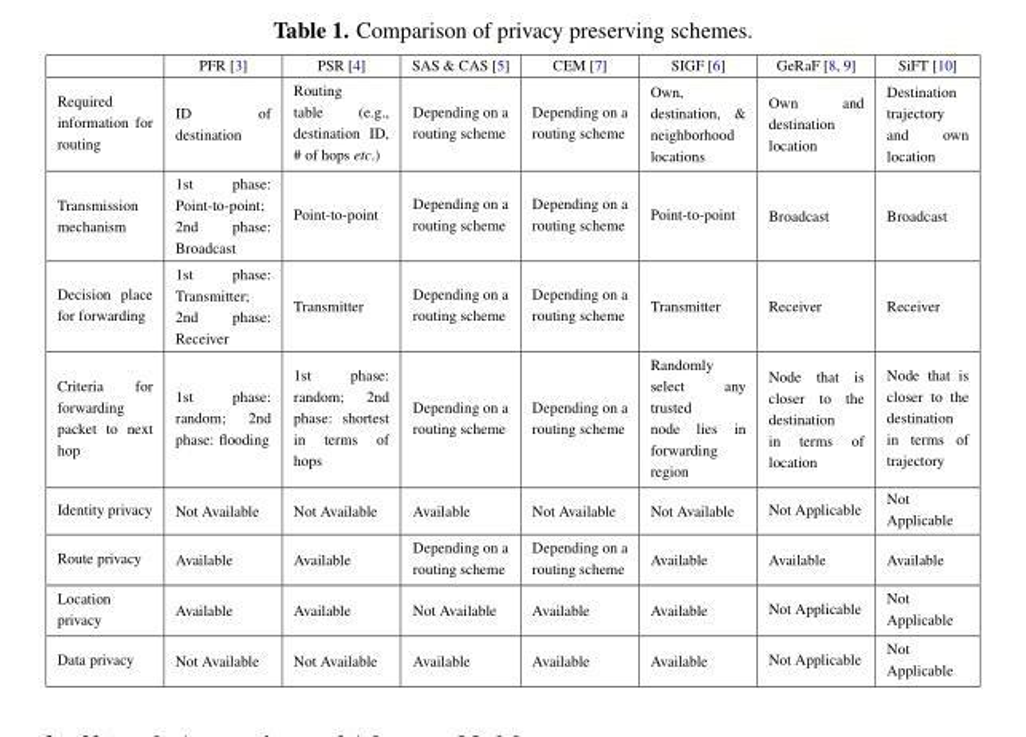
<table><thead><tr><td></td><td>PFR [3]</td><td>PSR [4]</td><td>SAS &amp; CAS [5]</td><td>CEM [7]</td><td>SIGF [6]</td><td>GeRaF [8, 9]</td><td>SiFT [10]</td></tr></thead><tbody><tr><td>Required information for routing</td><td>ID of destination</td><td>Routing table (e.g., destination ID, # of hops etc.)</td><td>Depending on a routing scheme</td><td>Depending on a routing scheme</td><td>Own, destination, &amp; neighborhood locations</td><td>Own and destination location</td><td>Destination trajectory and own location</td></tr><tr><td>Transmission mechanism</td><td>1st phase: Point-to-point; 2nd phase: Broadcast</td><td>Point-to-point</td><td>Depending on a routing scheme</td><td>Depending on a routing scheme</td><td>Point-to-point</td><td>Broadcast</td><td>Broadcast</td></tr><tr><td>Decision place for forwarding</td><td>1st phase: Transmitter; 2nd phase: Receiver</td><td>Transmitter</td><td>Depending on a routing scheme</td><td>Depending on a routing scheme</td><td>Transmitter</td><td>Receiver</td><td>Receiver</td></tr><tr><td>Criteria for forwarding packet to next hop</td><td>1st phase: random; 2nd phase: flooding</td><td>1st phase: random; 2nd phase: shortest in terms of hops</td><td>Depending on a routing scheme</td><td>Depending on a routing scheme</td><td>Randomly select any trusted node lies in forwarding region</td><td>Node that is closer to the destination in terms of location</td><td>Node that is closer to the destination in terms of trajectory</td></tr><tr><td>Identity privacy</td><td>Not Available</td><td>Not Available</td><td>Available</td><td>Not Available</td><td>Not Available</td><td>Not Applicable</td><td>Not Applicable</td></tr><tr><td>Route privacy</td><td>Available</td><td>Available</td><td>Depending on a routing scheme</td><td>Depending on a routing scheme</td><td>Available</td><td>Available</td><td>Available</td></tr><tr><td>Location privacy</td><td>Available</td><td>Available</td><td>Not Available</td><td>Available</td><td>Available</td><td>Not Applicable</td><td>Not Applicable</td></tr><tr><td>Data privacy</td><td>Not Available</td><td>Not Available</td><td>Available</td><td>Available</td><td>Available</td><td>Not Applicable</td><td>Not Applicable</td></tr></tbody></table>